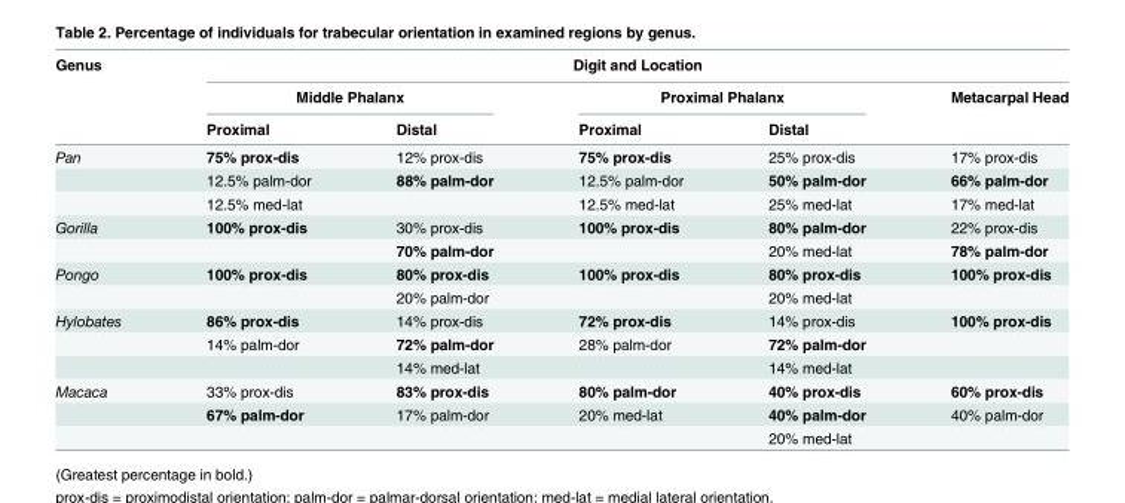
<table><thead><tr><td rowspan="3">Genus</td><td colspan="5">Digit and Location</td></tr><tr><td colspan="2">Middle Phalanx</td><td colspan="2">Proximal Phalanx</td><td rowspan="2">Metacarpal Head</td></tr><tr><td>Proximal</td><td>Distal</td><td>Proximal</td><td>Distal</td></tr></thead><tbody><tr><td rowspan="3">Pan</td><td>75% prox-dis</td><td>12% prox-dis</td><td>75% prox-dis</td><td>25% prox-dis</td><td>17% prox-dis</td></tr><tr><td>12.5% palm-dor</td><td>88% palm-dor</td><td>12.5% palm-dor</td><td>50% palm-dor</td><td>66% palm-dor</td></tr><tr><td>12.5% med-lat</td><td></td><td>12.5% med-lat</td><td>25% med-lat</td><td>17% med-lat</td></tr><tr><td rowspan="2">Gorilla</td><td>100% prox-dis</td><td>30% prox-dis</td><td>100% prox-dis</td><td>80% palm-dor</td><td>22% prox-dis</td></tr><tr><td></td><td>70% palm-dor</td><td></td><td>20% med-lat</td><td>78% palm-dor</td></tr><tr><td rowspan="2">Pongo</td><td>100% prox-dis</td><td>80% prox-dis</td><td>100% prox-dis</td><td>80% prox-dis</td><td>100% prox-dis</td></tr><tr><td></td><td>20% palm-dor</td><td></td><td>20% med-lat</td><td></td></tr><tr><td rowspan="3">Hylobates</td><td>86% prox-dis</td><td>14% prox-dis</td><td>72% prox-dis</td><td>14% prox-dis</td><td>100% prox-dis</td></tr><tr><td>14% palm-dor</td><td>72% palm-dor</td><td>28% palm-dor</td><td>72% palm-dor</td><td></td></tr><tr><td></td><td>14% med-lat</td><td></td><td>14% med-lat</td><td></td></tr><tr><td rowspan="3">Macaca</td><td>33% prox-dis</td><td>83% prox-dis</td><td>80% palm-dor</td><td>40% prox-dis</td><td>60% prox-dis</td></tr><tr><td>67% palm-dor</td><td>17% palm-dor</td><td>20% med-lat</td><td>40% palm-dor</td><td>40% palm-dor</td></tr><tr><td></td><td></td><td></td><td>20% med-lat</td><td></td></tr></tbody></table>